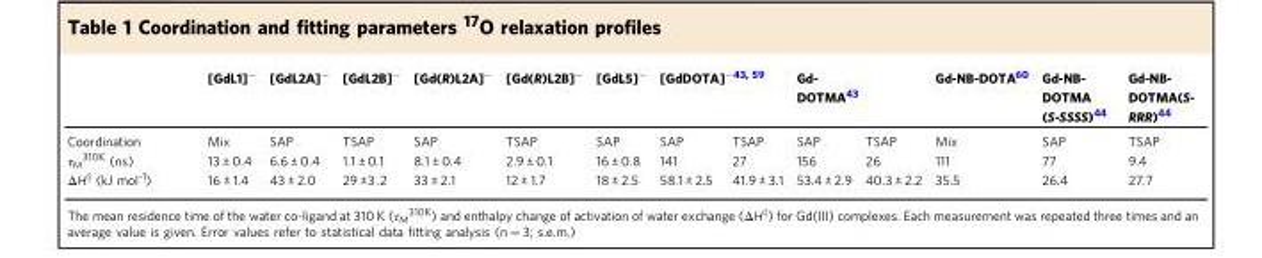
<table><thead><tr><td rowspan="2">Coordination</td><td rowspan="2">[GdL1]<sup>−</sup> Mix</td><td rowspan="2">[GdL2A]<sup>−</sup> SAP</td><td rowspan="2">[GdL2B]<sup>−</sup> TSAP</td><td rowspan="2">[Gd(R)L2A]<sup>−</sup> SAP</td><td rowspan="2">[Gd(R)L2B]<sup>−</sup> TSAP</td><td rowspan="2">[GdL5]<sup>−</sup> SAP</td><td colspan="2">[GdDOTA]<sup>−43, 59</sup></td><td colspan="2">Gd- DOTMA<sup>43</sup></td><td rowspan="2">Gd-NB-DOTA<sup>60</sup> Mix</td><td rowspan="2">Gd-NB- DOTMA (S-SSSS)<sup>44</sup> SAP</td><td rowspan="2">Gd-NB- DOTMA(S- RRR)<sup>44</sup> TSAP</td></tr><tr><td>SAP</td><td>TSAP</td><td>SAP</td><td>TSAP</td></tr></thead><tbody><tr><td>τ<sub>M</sub><sup>310K</sup> (ns)</td><td>13 ± 0.4</td><td>6.6 ± 0.4</td><td>1.1 ± 0.1</td><td>8.1 ± 0.4</td><td>2.9 ± 0.1</td><td>16 ± 0.8</td><td>141</td><td>27</td><td>156</td><td>26</td><td>111</td><td>77</td><td>9.4</td></tr><tr><td>ΔH<sup>‡</sup> (kJ mol<sup>-1</sup>)</td><td>16 ± 1.4</td><td>43 ± 2.0</td><td>29 ±3 .2</td><td>33 ± 2.1</td><td>12 ± 1.7</td><td>18 ± 2.5</td><td>58.1 ± 2.5</td><td>41.9 ± 3.1</td><td>53.4 ± 2.9</td><td>40.3 ± 2.2</td><td>35.5</td><td>26.4</td><td>27.7</td></tr></tbody></table>